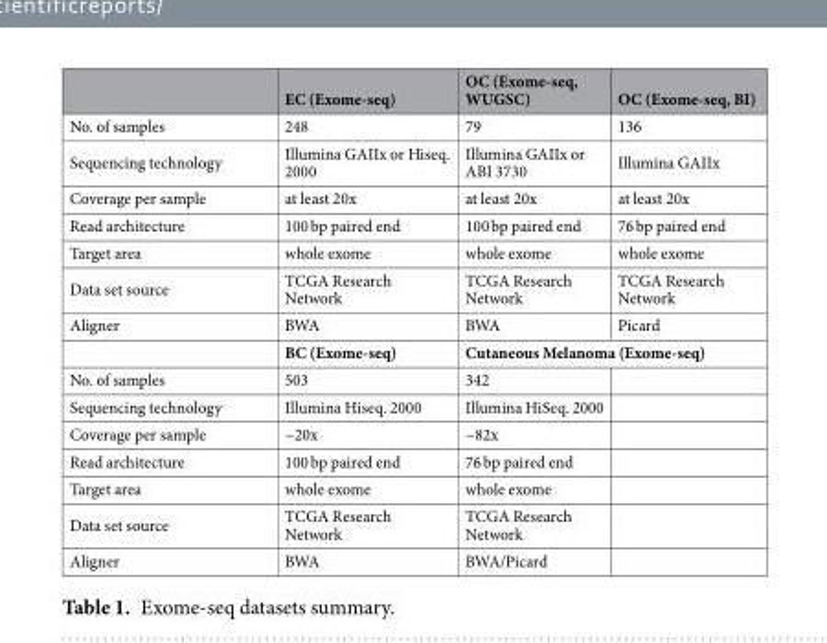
<table><thead><tr><td></td><td>EC (Exome-seq)</td><td>OC (Exome-seq, WUGSC)</td><td>OC (Exome-seq, BI)</td></tr></thead><tbody><tr><td>No. of samples</td><td>248</td><td>79</td><td>136</td></tr><tr><td>Sequencing technology</td><td>Illumina GAIIx or Hiseq. 2000</td><td>Illumina GAIIx or ABI 3730</td><td>Illumina GAIIx</td></tr><tr><td>Coverage per sample</td><td>at least 20x</td><td>at least 20x</td><td>at least 20x</td></tr><tr><td>Read architecture</td><td>100 bp paired end</td><td>100 bp paired end</td><td>76 bp paired end</td></tr><tr><td>Target area</td><td>whole exome</td><td>whole exome</td><td>whole exome</td></tr><tr><td>Data set source</td><td>TCGA Research Network</td><td>TCGA Research Network</td><td>TCGA Research Network</td></tr><tr><td rowspan="2">Aligner</td><td>BWA</td><td>BWA</td><td>Picard</td></tr><tr><td>BC (Exome-seq)</td><td colspan="2">Cutaneous Melanoma (Exome-seq)</td></tr><tr><td>No. of samples</td><td>503</td><td>342</td><td></td></tr><tr><td>Sequencing technology</td><td>Illumina Hiseq. 2000</td><td>Illumina HiSeq. 2000</td><td></td></tr><tr><td>Coverage per sample</td><td>~20x</td><td>~82x</td><td></td></tr><tr><td>Read architecture</td><td>100 bp paired end</td><td>76 bp paired end</td><td></td></tr><tr><td>Target area</td><td>whole exome</td><td>whole exome</td><td></td></tr><tr><td>Data set source</td><td>TCGA Research Network</td><td>TCGA Research Network</td><td></td></tr><tr><td>Aligner</td><td>BWA</td><td>BWA/Picard</td><td></td></tr></tbody></table>